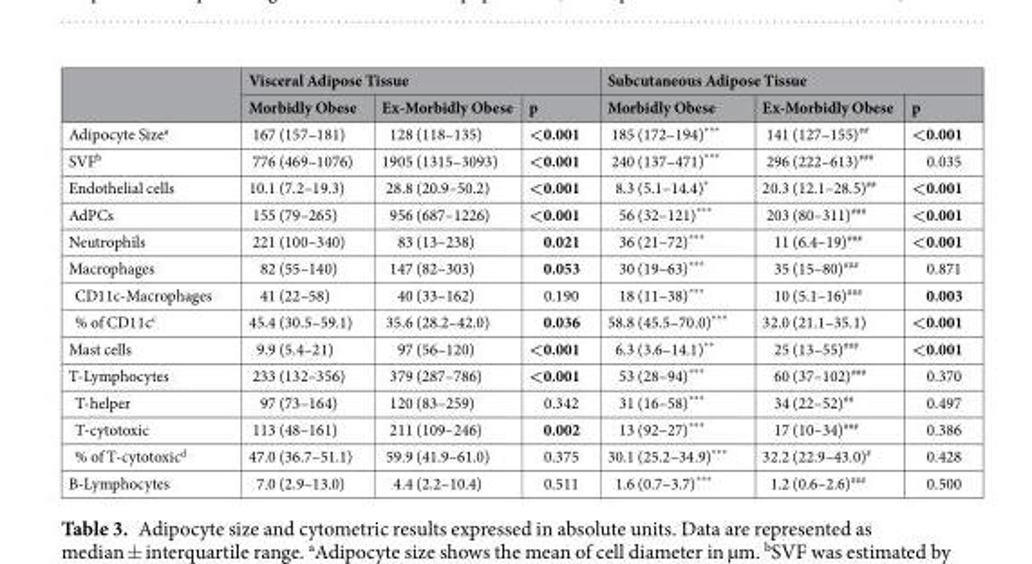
<table><thead><tr><td rowspan="2"></td><td colspan="3">Visceral Adipose Tissue</td><td colspan="3">Subcutaneous Adipose Tissue</td></tr><tr><td>Morbidly Obese</td><td>Ex-Morbidly Obese</td><td>p</td><td>Morbidly Obese</td><td>Ex-Morbidly Obese</td><td>p</td></tr></thead><tbody><tr><td>Adipocyte Size<sup>a</sup></td><td>167 (157–181)</td><td>128 (118–135)</td><td>&lt;0.001</td><td>185 (172–194)***</td><td>141 (127–155)<sup>##</sup></td><td>&lt;0.001</td></tr><tr><td>SVF<sup>b</sup></td><td>776 (469–1076)</td><td>1905 (1315–3093)</td><td>&lt;0.001</td><td>240 (137–471)***</td><td>296 (222–613)<sup>###</sup></td><td>0.035</td></tr><tr><td>Endothelial cells</td><td>10.1 (7.2–19.3)</td><td>28.8 (20.9–50.2)</td><td>&lt;0.001</td><td>8.3 (5.1–14.4)*</td><td>20.3 (12.1–28.5)<sup>##</sup></td><td>&lt;0.001</td></tr><tr><td>AdPCs</td><td>155 (79–265)</td><td>956 (687–1226)</td><td>&lt;0.001</td><td>56 (32–121)***</td><td>203 (80–311)<sup>###</sup></td><td>&lt;0.001</td></tr><tr><td>Neutrophils</td><td>221 (100–340)</td><td>83 (13–238)</td><td>0.021</td><td>36 (21–72)***</td><td>11 (6.4–19)<sup>###</sup></td><td>&lt;0.001</td></tr><tr><td>Macrophages</td><td>82 (55–140)</td><td>147 (82–303)</td><td>0.053</td><td>30 (19–63)***</td><td>35 (15–80)<sup>###</sup></td><td>0.871</td></tr><tr><td>CD11c-Macrophages</td><td>41 (22–58)</td><td>40 (33–162)</td><td>0.190</td><td>18 (11–38)***</td><td>10 (5.1–16)<sup>###</sup></td><td>0.003</td></tr><tr><td>% of CD11c<sup>c</sup></td><td>45.4 (30.5–59.1)</td><td>35.6 (28.2–42.0)</td><td>0.036</td><td>58.8 (45.5–70.0)***</td><td>32.0 (21.1–35.1)</td><td>&lt;0.001</td></tr><tr><td>Mast cells</td><td>9.9 (5.4–21)</td><td>97 (56–120)</td><td>&lt;0.001</td><td>6.3 (3.6–14.1)**</td><td>25 (13–55)<sup>###</sup></td><td>&lt;0.001</td></tr><tr><td>T-Lymphocytes</td><td>233 (132–356)</td><td>379 (287–786)</td><td>&lt;0.001</td><td>53 (28–94)***</td><td>60 (37–102)<sup>###</sup></td><td>0.370</td></tr><tr><td>T-helper</td><td>97 (73–164)</td><td>120 (83–259)</td><td>0.342</td><td>31 (16–58)***</td><td>34 (22–52)<sup>##</sup></td><td>0.497</td></tr><tr><td>T-cytotoxic</td><td>113 (48–161)</td><td>211 (109–246)</td><td>0.002</td><td>13 (92–27)***</td><td>17 (10–34)<sup>###</sup></td><td>0.386</td></tr><tr><td>% of T-cytotoxic<sup>d</sup></td><td>47.0 (36.7–51.1)</td><td>59.9 (41.9–61.0)</td><td>0.375</td><td>30.1 (25.2–34.9)***</td><td>32.2 (22.9–43.0)<sup>#</sup></td><td>0.428</td></tr><tr><td>B-Lymphocytes</td><td>7.0 (2.9–13.0)</td><td>4.4 (2.2–10.4)</td><td>0.511</td><td>1.6 (0.7–3.7)***</td><td>1.2 (0.6–2.6)<sup>###</sup></td><td>0.500</td></tr></tbody></table>